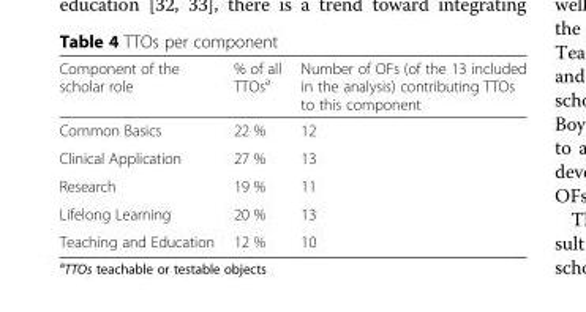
<table><thead><tr><td>Component of the scholar role</td><td>% of all TTOs<sup>a</sup></td><td>Number of OFs (of the 13 included in the analysis) contributing TTOs to this component</td></tr></thead><tbody><tr><td>Common Basics</td><td>22 %</td><td>12</td></tr><tr><td>Clinical Application</td><td>27 %</td><td>13</td></tr><tr><td>Research</td><td>19 %</td><td>11</td></tr><tr><td>Lifelong Learning</td><td>20 %</td><td>13</td></tr><tr><td>Teaching and Education</td><td>12 %</td><td>10</td></tr></tbody></table>